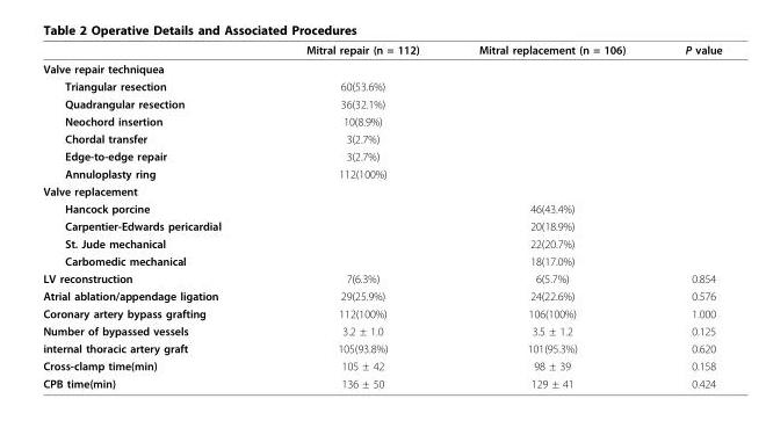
<table><thead><tr><td></td><td>Mitral repair (n = 112)</td><td>Mitral replacement (n = 106)</td><td>P value</td></tr></thead><tbody><tr><td colspan="4">Valve repair techniquea</td></tr><tr><td>Triangular resection</td><td>60(53.6%)</td><td></td><td></td></tr><tr><td>Quadrangular resection</td><td>36(32.1%)</td><td></td><td></td></tr><tr><td>Neochord insertion</td><td>10(8.9%)</td><td></td><td></td></tr><tr><td>Chordal transfer</td><td>3(2.7%)</td><td></td><td></td></tr><tr><td>Edge-to-edge repair</td><td>3(2.7%)</td><td></td><td></td></tr><tr><td>Annuloplasty ring</td><td>112(100%)</td><td></td><td></td></tr><tr><td colspan="4">Valve replacement</td></tr><tr><td>Hancock porcine</td><td></td><td>46(43.4%)</td><td></td></tr><tr><td>Carpentier-Edwards pericardial</td><td></td><td>20(18.9%)</td><td></td></tr><tr><td>St. Jude mechanical</td><td></td><td>22(20.7%)</td><td></td></tr><tr><td>Carbomedic mechanical</td><td></td><td>18(17.0%)</td><td></td></tr><tr><td>LV reconstruction</td><td>7(6.3%)</td><td>6(5.7%)</td><td>0.854</td></tr><tr><td>Atrial ablation/appendage ligation</td><td>29(25.9%)</td><td>24(22.6%)</td><td>0.576</td></tr><tr><td>Coronary artery bypass grafting</td><td>112(100%)</td><td>106(100%)</td><td>1.000</td></tr><tr><td>Number of bypassed vessels</td><td>3.2 ± 1.0</td><td>3.5 ± 1.2</td><td>0.125</td></tr><tr><td>internal thoracic artery graft</td><td>105(93.8%)</td><td>101(95.3%)</td><td>0.620</td></tr><tr><td>Cross-clamp time(min)</td><td>105 ± 42</td><td>98 ± 39</td><td>0.158</td></tr><tr><td>CPB time(min)</td><td>136 ± 50</td><td>129 ± 41</td><td>0.424</td></tr></tbody></table>